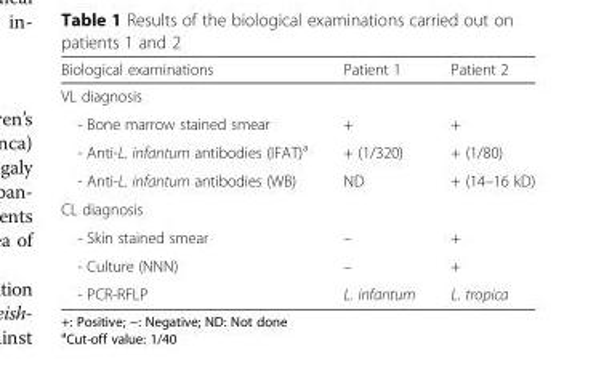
<table><thead><tr><td>Biological examinations</td><td>Patient 1</td><td>Patient 2</td></tr></thead><tbody><tr><td colspan="3">VL diagnosis</td></tr><tr><td>- Bone marrow stained smear</td><td>+</td><td>+</td></tr><tr><td>- Anti-L. infantum antibodies (IFAT)<sup>a</sup></td><td>+ (1/320)</td><td>+ (1/80)</td></tr><tr><td>- Anti-L. infantum antibodies (WB)</td><td>ND</td><td>+ (14–16 kD)</td></tr><tr><td colspan="3">CL diagnosis</td></tr><tr><td>- Skin stained smear</td><td>–</td><td>+</td></tr><tr><td>- Culture (NNN)</td><td>–</td><td>+</td></tr><tr><td>- PCR-RFLP</td><td>L. infantum</td><td>L. tropica</td></tr></tbody></table>